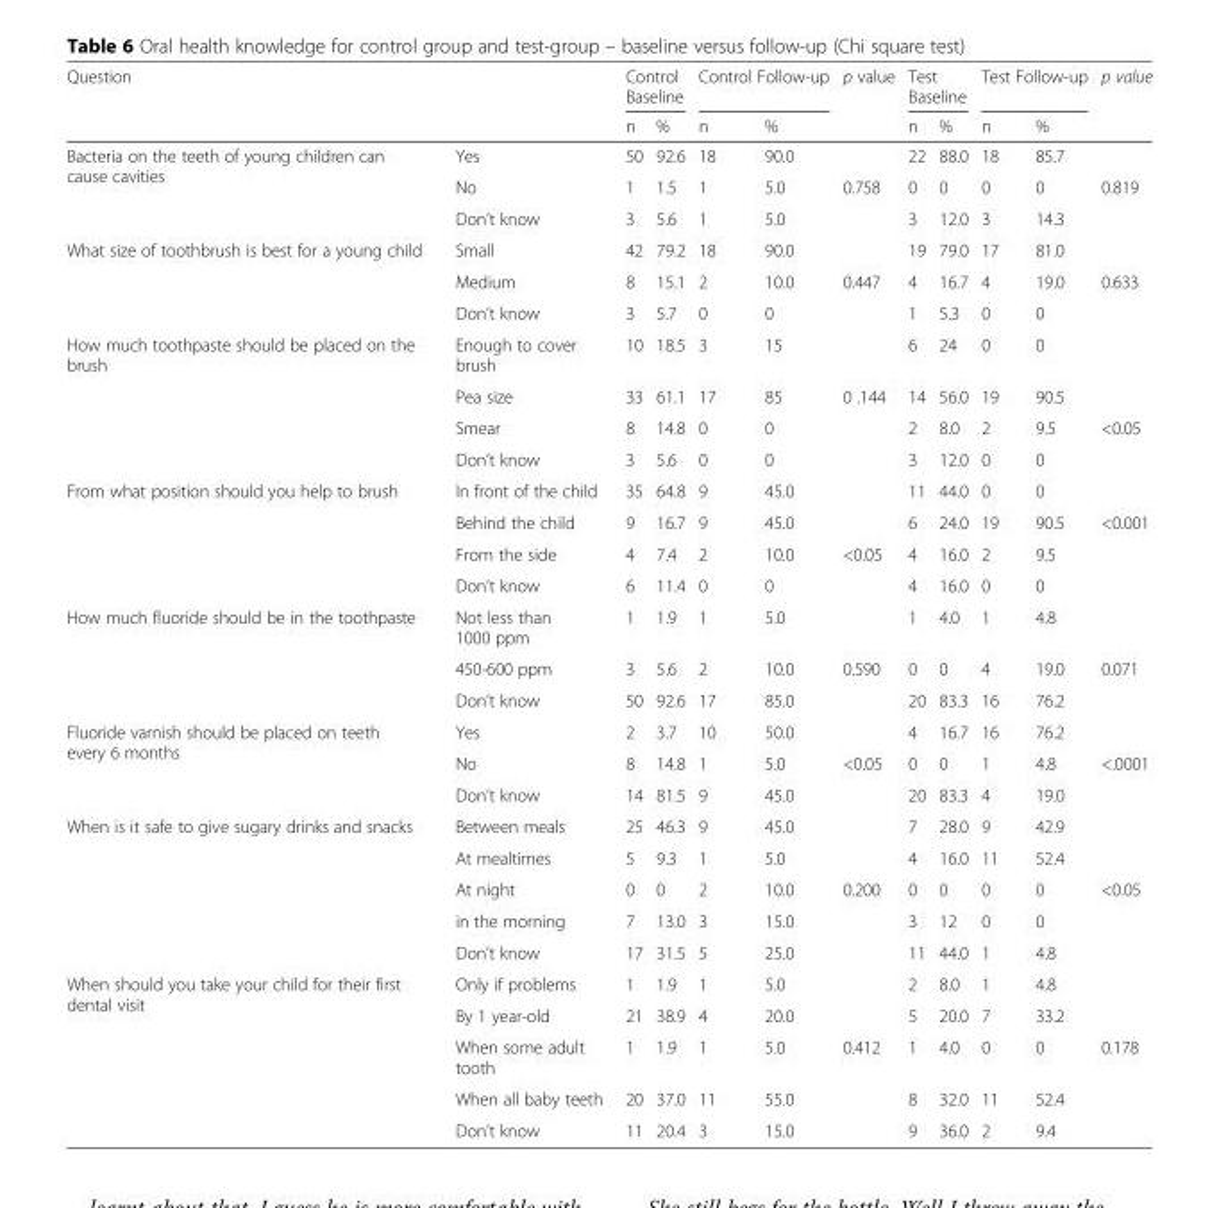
<table><thead><tr><td rowspan="2">Question</td><td rowspan="2"></td><td colspan="2">Control Baseline</td><td colspan="2">Control Follow-up</td><td rowspan="2">p value</td><td colspan="2">Test Baseline</td><td colspan="2">Test Follow-up</td><td rowspan="2">p value</td></tr><tr><td>n</td><td>%</td><td>n</td><td>%</td><td>n</td><td>%</td><td>n</td><td>%</td></tr></thead><tbody><tr><td rowspan="3">Bacteria on the teeth of young children can cause cavities</td><td>Yes</td><td>50</td><td>92.6</td><td>18</td><td>90.0</td><td></td><td>22</td><td>88.0</td><td>18</td><td>85.7</td><td></td></tr><tr><td>No</td><td>1</td><td>1.5</td><td>1</td><td>5.0</td><td>0.758</td><td>0</td><td>0</td><td>0</td><td>0</td><td>0.819</td></tr><tr><td>Don’t know</td><td>3</td><td>5.6</td><td>1</td><td>5.0</td><td></td><td>3</td><td>12.0</td><td>3</td><td>14.3</td><td></td></tr><tr><td rowspan="3">What size of toothbrush is best for a young child</td><td>Small</td><td>42</td><td>79.2</td><td>18</td><td>90.0</td><td></td><td>19</td><td>79.0</td><td>17</td><td>81.0</td><td></td></tr><tr><td>Medium</td><td>8</td><td>15.1</td><td>2</td><td>10.0</td><td>0.447</td><td>4</td><td>16.7</td><td>4</td><td>19.0</td><td>0.633</td></tr><tr><td>Don’t know</td><td>3</td><td>5.7</td><td>0</td><td>0</td><td></td><td>1</td><td>5.3</td><td>0</td><td>0</td><td></td></tr><tr><td rowspan="4">How much toothpaste should be placed on the brush</td><td>Enough to cover brush</td><td>10</td><td>18.5</td><td>3</td><td>15</td><td></td><td>6</td><td>24</td><td>0</td><td>0</td><td></td></tr><tr><td>Pea size</td><td>33</td><td>61.1</td><td>17</td><td>85</td><td>0 .144</td><td>14</td><td>56.0</td><td>19</td><td>90.5</td><td></td></tr><tr><td>Smear</td><td>8</td><td>14.8</td><td>0</td><td>0</td><td></td><td>2</td><td>8.0</td><td>2</td><td>9.5</td><td>&lt;0.05</td></tr><tr><td>Don’t know</td><td>3</td><td>5.6</td><td>0</td><td>0</td><td></td><td>3</td><td>12.0</td><td>0</td><td>0</td><td></td></tr><tr><td rowspan="4">From what position should you help to brush</td><td>In front of the child</td><td>35</td><td>64.8</td><td>9</td><td>45.0</td><td></td><td>11</td><td>44.0</td><td>0</td><td>0</td><td></td></tr><tr><td>Behind the child</td><td>9</td><td>16.7</td><td>9</td><td>45.0</td><td></td><td>6</td><td>24.0</td><td>19</td><td>90.5</td><td>&lt;0.001</td></tr><tr><td>From the side</td><td>4</td><td>7.4</td><td>2</td><td>10.0</td><td>&lt;0.05</td><td>4</td><td>16.0</td><td>2</td><td>9.5</td><td></td></tr><tr><td>Don’t know</td><td>6</td><td>11.4</td><td>0</td><td>0</td><td></td><td>4</td><td>16.0</td><td>0</td><td>0</td><td></td></tr><tr><td rowspan="3">How much fluoride should be in the toothpaste</td><td>Not less than 1000 ppm</td><td>1</td><td>1.9</td><td>1</td><td>5.0</td><td></td><td>1</td><td>4.0</td><td>1</td><td>4.8</td><td></td></tr><tr><td>450-600 ppm</td><td>3</td><td>5.6</td><td>2</td><td>10.0</td><td>0.590</td><td>0</td><td>0</td><td>4</td><td>19.0</td><td>0.071</td></tr><tr><td>Don’t know</td><td>50</td><td>92.6</td><td>17</td><td>85.0</td><td></td><td>20</td><td>83.3</td><td>16</td><td>76.2</td><td></td></tr><tr><td rowspan="3">Fluoride varnish should be placed on teeth every 6 months</td><td>Yes</td><td>2</td><td>3.7</td><td>10</td><td>50.0</td><td></td><td>4</td><td>16.7</td><td>16</td><td>76.2</td><td></td></tr><tr><td>No</td><td>8</td><td>14.8</td><td>1</td><td>5.0</td><td>&lt;0.05</td><td>0</td><td>0</td><td>1</td><td>4.8</td><td>&lt;.0001</td></tr><tr><td>Don’t know</td><td>14</td><td>81.5</td><td>9</td><td>45.0</td><td></td><td>20</td><td>83.3</td><td>4</td><td>19.0</td><td></td></tr><tr><td rowspan="5">When is it safe to give sugary drinks and snacks</td><td>Between meals</td><td>25</td><td>46.3</td><td>9</td><td>45.0</td><td></td><td>7</td><td>28.0</td><td>9</td><td>42.9</td><td></td></tr><tr><td>At mealtimes</td><td>5</td><td>9.3</td><td>1</td><td>5.0</td><td></td><td>4</td><td>16.0</td><td>11</td><td>52.4</td><td></td></tr><tr><td>At night</td><td>0</td><td>0</td><td>2</td><td>10.0</td><td>0.200</td><td>0</td><td>0</td><td>0</td><td>0</td><td>&lt;0.05</td></tr><tr><td>in the morning</td><td>7</td><td>13.0</td><td>3</td><td>15.0</td><td></td><td>3</td><td>12</td><td>0</td><td>0</td><td></td></tr><tr><td>Don’t know</td><td>17</td><td>31.5</td><td>5</td><td>25.0</td><td></td><td>11</td><td>44.0</td><td>1</td><td>4.8</td><td></td></tr><tr><td rowspan="5">When should you take your child for their first dental visit</td><td>Only if problems</td><td>1</td><td>1.9</td><td>1</td><td>5.0</td><td></td><td>2</td><td>8.0</td><td>1</td><td>4.8</td><td></td></tr><tr><td>By 1 year-old</td><td>21</td><td>38.9</td><td>4</td><td>20.0</td><td></td><td>5</td><td>20.0</td><td>7</td><td>33.2</td><td></td></tr><tr><td>When some adult tooth</td><td>1</td><td>1.9</td><td>1</td><td>5.0</td><td>0.412</td><td>1</td><td>4.0</td><td>0</td><td>0</td><td>0.178</td></tr><tr><td>When all baby teeth</td><td>20</td><td>37.0</td><td>11</td><td>55.0</td><td></td><td>8</td><td>32.0</td><td>11</td><td>52.4</td><td></td></tr><tr><td>Don’t know</td><td>11</td><td>20.4</td><td>3</td><td>15.0</td><td></td><td>9</td><td>36.0</td><td>2</td><td>9.4</td><td></td></tr></tbody></table>